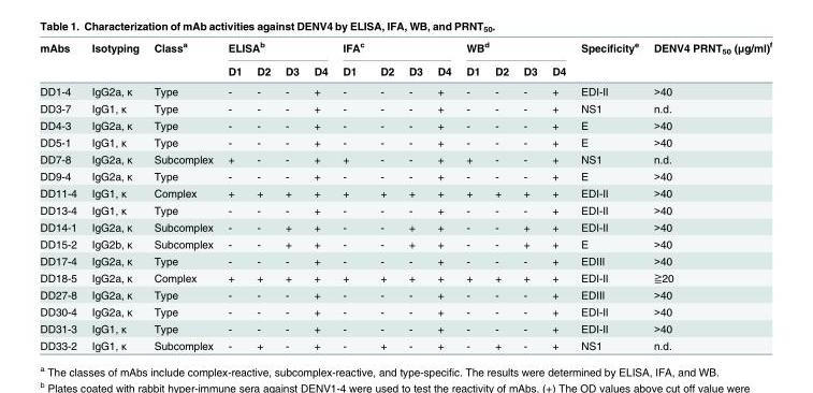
<table><thead><tr><td rowspan="2">mAbs</td><td rowspan="2">Isotyping</td><td rowspan="2">Class<sup>a</sup></td><td colspan="4">ELISA<sup>b</sup></td><td colspan="4">IFA<sup>c</sup></td><td colspan="4">WB<sup>d</sup></td><td rowspan="2">Specificity<sup>e</sup></td><td rowspan="2">DENV4 PRNT<sub>50</sub> (μg/ml)<sup>f</sup></td></tr><tr><td>D1</td><td>D2</td><td>D3</td><td>D4</td><td>D1</td><td>D2</td><td>D3</td><td>D4</td><td>D1</td><td>D2</td><td>D3</td><td>D4</td></tr></thead><tbody><tr><td>DD1-4</td><td>IgG2a, κ</td><td>Type</td><td>-</td><td>-</td><td>-</td><td>+</td><td>-</td><td>-</td><td>-</td><td>+</td><td>-</td><td>-</td><td>-</td><td>+</td><td>EDI-II</td><td>&gt;40</td></tr><tr><td>DD3-7</td><td>IgG1, κ</td><td>Type</td><td>-</td><td>-</td><td>-</td><td>+</td><td>-</td><td>-</td><td>-</td><td>+</td><td>-</td><td>-</td><td>-</td><td>+</td><td>NS1</td><td>n.d.</td></tr><tr><td>DD4-3</td><td>IgG2a, κ</td><td>Type</td><td>-</td><td>-</td><td>-</td><td>+</td><td>-</td><td>-</td><td>-</td><td>+</td><td>-</td><td>-</td><td>-</td><td>+</td><td>E</td><td>&gt;40</td></tr><tr><td>DD5-1</td><td>IgG1, κ</td><td>Type</td><td>-</td><td>-</td><td>-</td><td>+</td><td>-</td><td>-</td><td>-</td><td>+</td><td>-</td><td>-</td><td>-</td><td>+</td><td>E</td><td>&gt;40</td></tr><tr><td>DD7-8</td><td>IgG2a, κ</td><td>Subcomplex</td><td>+</td><td>-</td><td>-</td><td>+</td><td>+</td><td>-</td><td>-</td><td>+</td><td>+</td><td>-</td><td>-</td><td>+</td><td>NS1</td><td>n.d.</td></tr><tr><td>DD9-4</td><td>IgG2a, κ</td><td>Type</td><td>-</td><td>-</td><td>-</td><td>+</td><td>-</td><td>-</td><td>-</td><td>+</td><td>-</td><td>-</td><td>-</td><td>+</td><td>E</td><td>&gt;40</td></tr><tr><td>DD11-4</td><td>IgG1, κ</td><td>Complex</td><td>+</td><td>+</td><td>+</td><td>+</td><td>+</td><td>+</td><td>+</td><td>+</td><td>+</td><td>+</td><td>+</td><td>+</td><td>EDI-II</td><td>&gt;40</td></tr><tr><td>DD13-4</td><td>IgG1, κ</td><td>Type</td><td>-</td><td>-</td><td>-</td><td>+</td><td>-</td><td>-</td><td>-</td><td>+</td><td>-</td><td>-</td><td>-</td><td>+</td><td>EDI-II</td><td>&gt;40</td></tr><tr><td>DD14-1</td><td>IgG2a, κ</td><td>Subcomplex</td><td>-</td><td>-</td><td>+</td><td>+</td><td>-</td><td>-</td><td>+</td><td>+</td><td>-</td><td>-</td><td>+</td><td>+</td><td>EDI-II</td><td>&gt;40</td></tr><tr><td>DD15-2</td><td>IgG2b, κ</td><td>Subcomplex</td><td>-</td><td>-</td><td>+</td><td>+</td><td>-</td><td>-</td><td>+</td><td>+</td><td>-</td><td>-</td><td>+</td><td>+</td><td>E</td><td>&gt;40</td></tr><tr><td>DD17-4</td><td>IgG2a, κ</td><td>Type</td><td>-</td><td>-</td><td>-</td><td>+</td><td>-</td><td>-</td><td>-</td><td>+</td><td>-</td><td>-</td><td>-</td><td>+</td><td>EDIII</td><td>&gt;40</td></tr><tr><td>DD18-5</td><td>IgG2a, κ</td><td>Complex</td><td>+</td><td>+</td><td>+</td><td>+</td><td>+</td><td>+</td><td>+</td><td>+</td><td>+</td><td>+</td><td>+</td><td>+</td><td>EDI-II</td><td>≧20</td></tr><tr><td>DD27-8</td><td>IgG2a, κ</td><td>Type</td><td>-</td><td>-</td><td>-</td><td>+</td><td>-</td><td>-</td><td>-</td><td>+</td><td>-</td><td>-</td><td>-</td><td>+</td><td>EDIII</td><td>&gt;40</td></tr><tr><td>DD30-4</td><td>IgG2a, κ</td><td>Type</td><td>-</td><td>-</td><td>-</td><td>+</td><td>-</td><td>-</td><td>-</td><td>+</td><td>-</td><td>-</td><td>-</td><td>+</td><td>EDI-II</td><td>&gt;40</td></tr><tr><td>DD31-3</td><td>IgG1, κ</td><td>Type</td><td>-</td><td>-</td><td>-</td><td>+</td><td>-</td><td>-</td><td>-</td><td>+</td><td>-</td><td>-</td><td>-</td><td>+</td><td>EDI-II</td><td>&gt;40</td></tr><tr><td>DD33-2</td><td>IgG1, κ</td><td>Subcomplex</td><td>-</td><td>+</td><td>-</td><td>+</td><td>-</td><td>+</td><td>-</td><td>+</td><td>-</td><td>+</td><td>-</td><td>+</td><td>NS1</td><td>n.d.</td></tr></tbody></table>